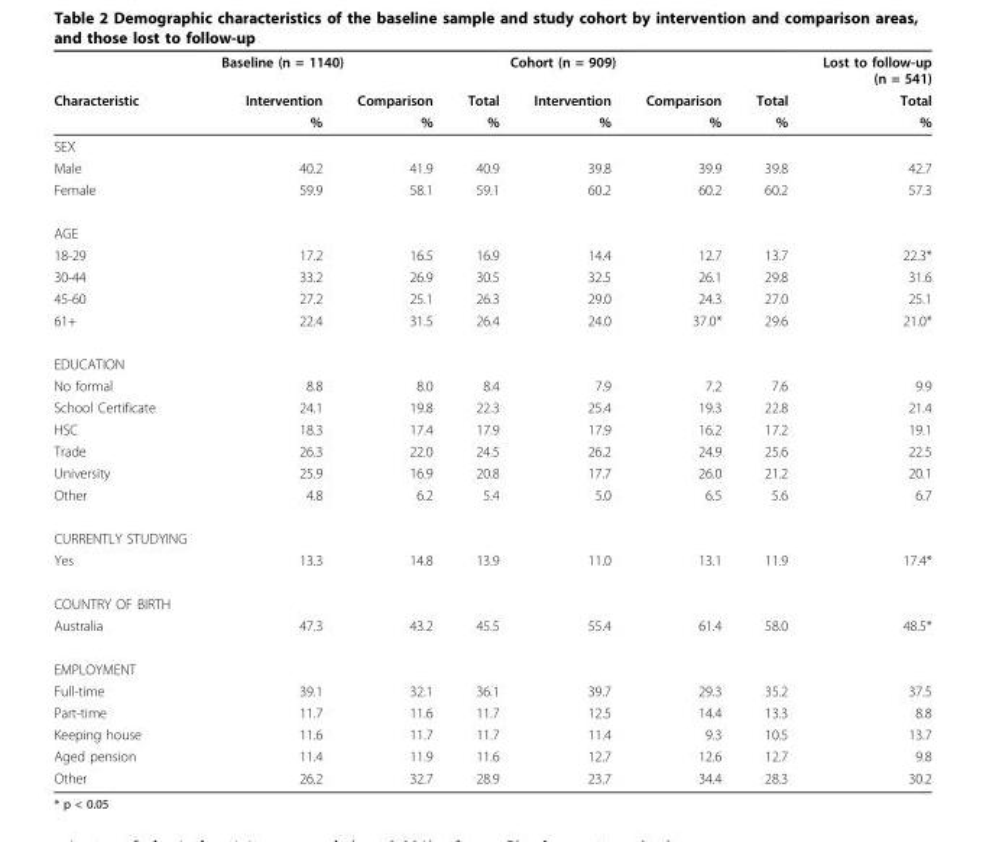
<table><thead><tr><td rowspan="3">Characteristic</td><td colspan="3">Baseline (n = 1140)</td><td colspan="3">Cohort (n = 909)</td><td rowspan="3">Lost to follow-up (n = 541) Total %</td></tr><tr><td rowspan="2">Intervention %</td><td rowspan="2">Comparison %</td><td rowspan="2">Total %</td><td rowspan="2">Intervention %</td><td rowspan="2">Comparison %</td><td rowspan="2">Total %</td></tr><tr></tr></thead><tbody><tr><td colspan="8">SEX</td></tr><tr><td>Male</td><td>40.2</td><td>41.9</td><td>40.9</td><td>39.8</td><td>39.9</td><td>39.8</td><td>42.7</td></tr><tr><td>Female</td><td>59.9</td><td>58.1</td><td>59.1</td><td>60.2</td><td>60.2</td><td>60.2</td><td>57.3</td></tr><tr><td colspan="8">AGE</td></tr><tr><td>18-29</td><td>17.2</td><td>16.5</td><td>16.9</td><td>14.4</td><td>12.7</td><td>13.7</td><td>22.3*</td></tr><tr><td>30-44</td><td>33.2</td><td>26.9</td><td>30.5</td><td>32.5</td><td>26.1</td><td>29.8</td><td>31.6</td></tr><tr><td>45-60</td><td>27.2</td><td>25.1</td><td>26.3</td><td>29.0</td><td>24.3</td><td>27.0</td><td>25.1</td></tr><tr><td>61+</td><td>22.4</td><td>31.5</td><td>26.4</td><td>24.0</td><td>37.0*</td><td>29.6</td><td>21.0*</td></tr><tr><td colspan="8">EDUCATION</td></tr><tr><td>No formal</td><td>8.8</td><td>8.0</td><td>8.4</td><td>7.9</td><td>7.2</td><td>7.6</td><td>9.9</td></tr><tr><td>School Certificate</td><td>24.1</td><td>19.8</td><td>22.3</td><td>25.4</td><td>19.3</td><td>22.8</td><td>21.4</td></tr><tr><td>HSC</td><td>18.3</td><td>17.4</td><td>17.9</td><td>17.9</td><td>16.2</td><td>17.2</td><td>19.1</td></tr><tr><td>Trade</td><td>26.3</td><td>22.0</td><td>24.5</td><td>26.2</td><td>24.9</td><td>25.6</td><td>22.5</td></tr><tr><td>University</td><td>25.9</td><td>16.9</td><td>20.8</td><td>17.7</td><td>26.0</td><td>21.2</td><td>20.1</td></tr><tr><td>Other</td><td>4.8</td><td>6.2</td><td>5.4</td><td>5.0</td><td>6.5</td><td>5.6</td><td>6.7</td></tr><tr><td colspan="8">CURRENTLY STUDYING</td></tr><tr><td>Yes</td><td>13.3</td><td>14.8</td><td>13.9</td><td>11.0</td><td>13.1</td><td>11.9</td><td>17.4*</td></tr><tr><td colspan="8">COUNTRY OF BIRTH</td></tr><tr><td>Australia</td><td>47.3</td><td>43.2</td><td>45.5</td><td>55.4</td><td>61.4</td><td>58.0</td><td>48.5*</td></tr><tr><td colspan="8">EMPLOYMENT</td></tr><tr><td>Full-time</td><td>39.1</td><td>32.1</td><td>36.1</td><td>39.7</td><td>29.3</td><td>35.2</td><td>37.5</td></tr><tr><td>Part-time</td><td>11.7</td><td>11.6</td><td>11.7</td><td>12.5</td><td>14.4</td><td>13.3</td><td>8.8</td></tr><tr><td>Keeping house</td><td>11.6</td><td>11.7</td><td>11.7</td><td>11.4</td><td>9.3</td><td>10.5</td><td>13.7</td></tr><tr><td>Aged pension</td><td>11.4</td><td>11.9</td><td>11.6</td><td>12.7</td><td>12.6</td><td>12.7</td><td>9.8</td></tr><tr><td>Other</td><td>26.2</td><td>32.7</td><td>28.9</td><td>23.7</td><td>34.4</td><td>28.3</td><td>30.2</td></tr></tbody></table>